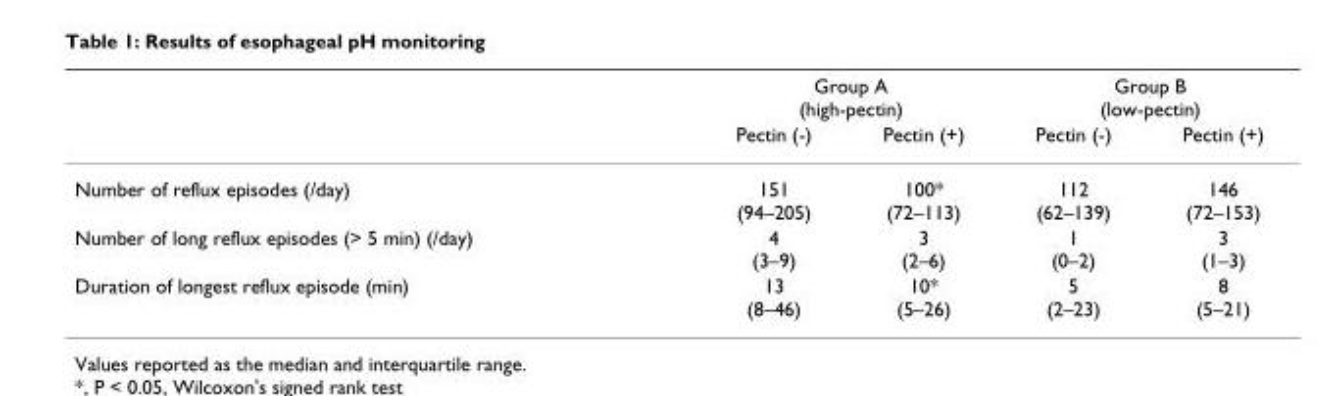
<table><thead><tr><td rowspan="2"></td><td colspan="2">Group A (high-pectin)</td><td colspan="2">Group B (low-pectin)</td></tr><tr><td>Pectin (-)</td><td>Pectin (+)</td><td>Pectin (-)</td><td>Pectin (+)</td></tr></thead><tbody><tr><td>Number of reflux episodes (/day)</td><td>151 (94–205)</td><td>100* (72–113)</td><td>112 (62–139)</td><td>146 (72–153)</td></tr><tr><td>Number of long reflux episodes (&gt; 5 min) (/day)</td><td>4 (3–9)</td><td>3 (2–6)</td><td>1 (0–2)</td><td>3 (1–3)</td></tr><tr><td>Duration of longest reflux episode (min)</td><td>13 (8–46)</td><td>10* (5–26)</td><td>5 (2–23)</td><td>8 (5–21)</td></tr></tbody></table>